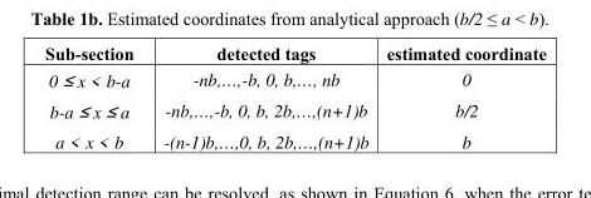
<table><thead><tr><td>Sub-section</td><td>detected tags</td><td>estimated coordinate</td></tr></thead><tbody><tr><td>0 ≤ x &lt; b-a</td><td>-nb,…,-b, 0, b,…, nb</td><td>0</td></tr><tr><td>b-a ≤ x ≤ a</td><td>-nb,…,-b, 0, b, 2b,…,(n+1)b</td><td>b/2</td></tr><tr><td>a &lt; x &lt; b</td><td>-(n-1)b,…,0, b, 2b,…,(n+1)b</td><td>b</td></tr></tbody></table>